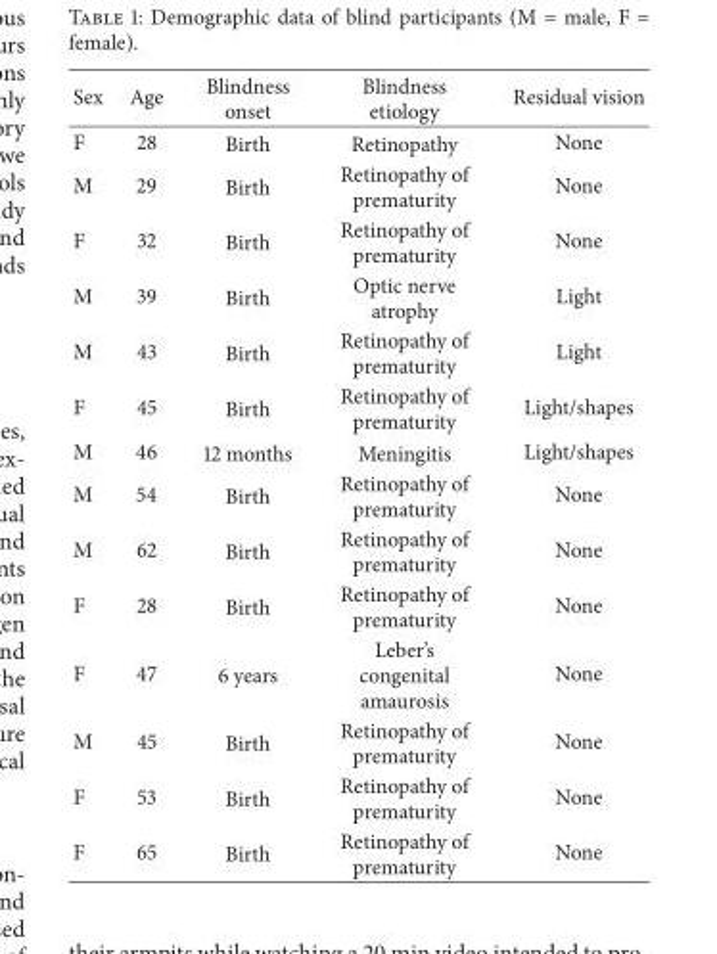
<table><thead><tr><td>Sex</td><td>Age</td><td>Blindness onset</td><td>Blindness etiology</td><td>Residual vision</td></tr></thead><tbody><tr><td>F</td><td>28</td><td>Birth</td><td>Retinopathy</td><td>None</td></tr><tr><td>M</td><td>29</td><td>Birth</td><td>Retinopathy of prematurity</td><td>None</td></tr><tr><td>F</td><td>32</td><td>Birth</td><td>Retinopathy of prematurity</td><td>None</td></tr><tr><td>M</td><td>39</td><td>Birth</td><td>Optic nerve atrophy</td><td>Light</td></tr><tr><td>M</td><td>43</td><td>Birth</td><td>Retinopathy of prematurity</td><td>Light</td></tr><tr><td>F</td><td>45</td><td>Birth</td><td>Retinopathy of prematurity</td><td>Light/shapes</td></tr><tr><td>M</td><td>46</td><td>12 months</td><td>Meningitis</td><td>Light/shapes</td></tr><tr><td>M</td><td>54</td><td>Birth</td><td>Retinopathy of prematurity</td><td>None</td></tr><tr><td>M</td><td>62</td><td>Birth</td><td>Retinopathy of prematurity</td><td>None</td></tr><tr><td>F</td><td>28</td><td>Birth</td><td>Retinopathy of prematurity</td><td>None</td></tr><tr><td>F</td><td>47</td><td>6 years</td><td>Leber’s congenital amaurosis</td><td>None</td></tr><tr><td>M</td><td>45</td><td>Birth</td><td>Retinopathy of prematurity</td><td>None</td></tr><tr><td>F</td><td>53</td><td>Birth</td><td>Retinopathy of prematurity</td><td>None</td></tr><tr><td>F</td><td>65</td><td>Birth</td><td>Retinopathy of prematurity</td><td>None</td></tr></tbody></table>